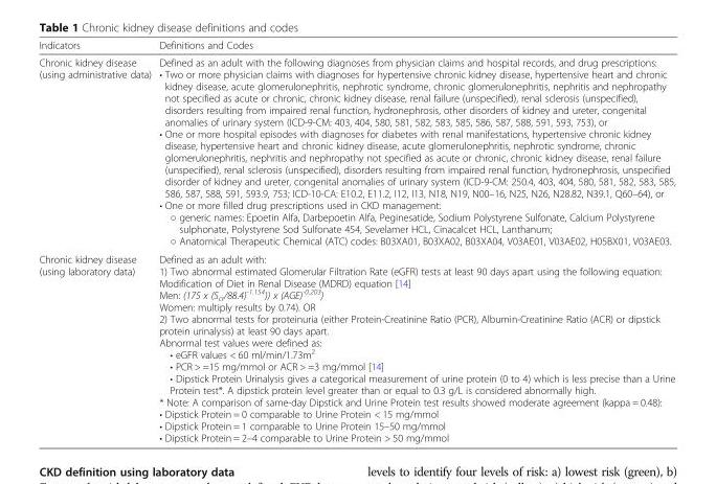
<table><thead><tr><td>Indicators</td><td>Definitions and Codes</td></tr></thead><tbody><tr><td>Chronic kidney disease (using administrative data)</td><td>Defined as an adult with the following diagnoses from physician claims and hospital records, and drug prescriptions: • Two or more physician claims with diagnoses for hypertensive chronic kidney disease, hypertensive heart and chronic kidney disease, acute glomerulonephritis, nephrotic syndrome, chronic glomerulonephritis, nephritis and nephropathy not specified as acute or chronic, chronic kidney disease, renal failure (unspecified), renal sclerosis (unspecified), disorders resulting from impaired renal function, hydronephrosis, other disorders of kidney and ureter, congenital anomalies of urinary system (ICD-9-CM: 403, 404, 580, 581, 582, 583, 585, 586, 587, 588, 591, 593, 753), or • One or more hospital episodes with diagnoses for diabetes with renal manifestations, hypertensive chronic kidney disease, hypertensive heart and chronic kidney disease, acute glomerulonephritis, nephrotic syndrome, chronic glomerulonephritis, nephritis and nephropathy not specified as acute or chronic, chronic kidney disease, renal failure (unspecified), renal sclerosis (unspecified), disorders resulting from impaired renal function, hydronephrosis, unspecified disorder of kidney and ureter, congenital anomalies of urinary system (ICD-9-CM: 250.4, 403, 404, 580, 581, 582, 583, 585, 586, 587, 588, 591, 593.9, 753; ICD-10-CA: E10.2, E11.2, I12, I13, N18, N19, N00–16, N25, N26, N28.82, N39.1, Q60–64), or • One or more filled drug prescriptions used in CKD management: ○ generic names: Epoetin Alfa, Darbepoetin Alfa, Peginesatide, Sodium Polystyrene Sulfonate, Calcium Polystyrene sulphonate, Polystyrene Sod Sulfonate 454, Sevelamer HCL, Cinacalcet HCL, Lanthanum; ○ Anatomical Therapeutic Chemical (ATC) codes: B03XA01, B03XA02, B03XA04, V03AE01, V03AE02, H05BX01, V03AE03.</td></tr><tr><td>Chronic kidney disease (using laboratory data)</td><td>Defined as an adult with: 1) Two abnormal estimated Glomerular Filtration Rate (eGFR) tests at least 90 days apart using the following equation: Modification of Diet in Renal Disease (MDRD) equation [14] Men: (175 x (S<sub>cr</sub>/88.4)<sup>-1.154</sup>)) x (AGE)<sup>-0.203</sup>) Women: multiply results by 0.74). OR 2) Two abnormal tests for proteinuria (either Protein-Creatinine Ratio (PCR), Albumin-Creatinine Ratio (ACR) or dipstick protein urinalysis) at least 90 days apart. Abnormal test values were defined as: • eGFR values &lt; 60 ml/min/1.73m<sup>2</sup> • PCR &gt; =15 mg/mmol or ACR &gt; =3 mg/mmol [14] • Dipstick Protein Urinalysis gives a categorical measurement of urine protein (0 to 4) which is less precise than a Urine Protein test*. A dipstick protein level greater than or equal to 0.3 g/L is considered abnormally high. * Note: A comparison of same-day Dipstick and Urine Protein test results showed moderate agreement (kappa = 0.48): • Dipstick Protein = 0 comparable to Urine Protein &lt; 15 mg/mmol • Dipstick Protein = 1 comparable to Urine Protein 15–50 mg/mmol • Dipstick Protein = 2–4 comparable to Urine Protein &gt; 50 mg/mmol</td></tr></tbody></table>